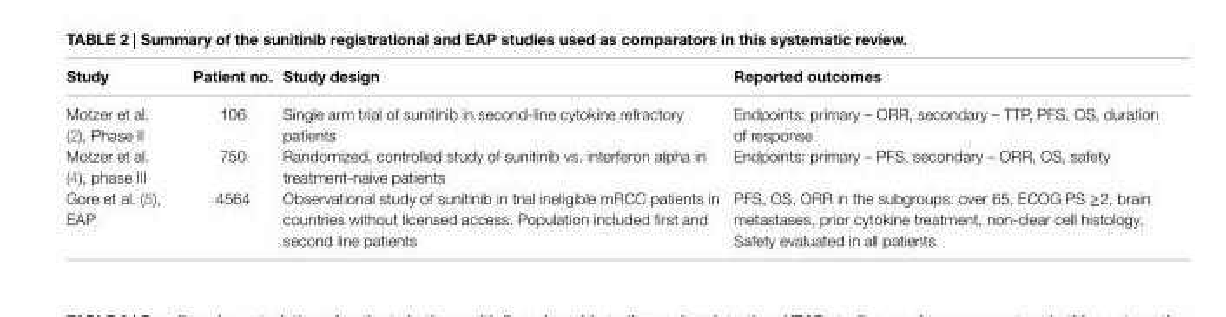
<table><thead><tr><td>study</td><td>Patient no.</td><td>study design</td><td>reported outcomes</td></tr></thead><tbody><tr><td>Motzer et al. (2), Phase II</td><td>106</td><td>Single arm trial of sunitinib in second-line cytokine refractory patients</td><td>Endpoints: primary – ORR, secondary – TTP, PFS, OS, duration of response</td></tr><tr><td>Motzer et al. (4), phase III</td><td>750</td><td>Randomized, controlled study of sunitinib vs. interferon alpha in treatment-naive patients</td><td>Endpoints: primary – PFS, secondary – ORR, OS, safety</td></tr><tr><td>Gore et al. (5), EAP</td><td>4564</td><td>Observational study of sunitinib in trial ineligible mRCC patients in countries without licensed access. Population included first and second line patients</td><td>PFS, OS, ORR in the subgroups: over 65, ECOG PS ≥2, brain metastases, prior cytokine treatment, non-clear cell histology. Safety evaluated in all patients</td></tr></tbody></table>